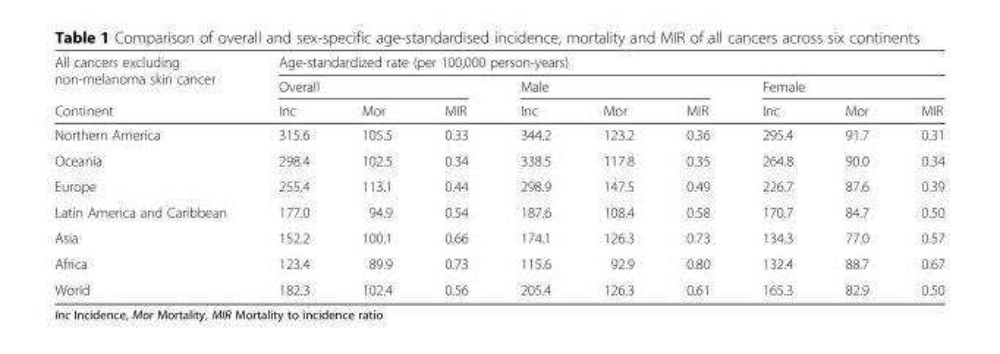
<table><thead><tr><td rowspan="3">All cancers excluding non-melanoma skin cancer Continent</td><td colspan="9">Age-standardized rate (per 100,000 person-years)</td></tr><tr><td colspan="3">Overall</td><td colspan="3">Male</td><td colspan="3">Female</td></tr><tr><td>Inc</td><td>Mor</td><td>MIR</td><td>Inc</td><td>Mor</td><td>MIR</td><td>Inc</td><td>Mor</td><td>MIR</td></tr></thead><tbody><tr><td>Northern America</td><td>315.6</td><td>105.5</td><td>0.33</td><td>344.2</td><td>123.2</td><td>0.36</td><td>295.4</td><td>91.7</td><td>0.31</td></tr><tr><td>Oceania</td><td>298.4</td><td>102.5</td><td>0.34</td><td>338.5</td><td>117.8</td><td>0.35</td><td>264.8</td><td>90.0</td><td>0.34</td></tr><tr><td>Europe</td><td>255.4</td><td>113.1</td><td>0.44</td><td>298.9</td><td>147.5</td><td>0.49</td><td>226.7</td><td>87.6</td><td>0.39</td></tr><tr><td>Latin America and Caribbean</td><td>177.0</td><td>94.9</td><td>0.54</td><td>187.6</td><td>108.4</td><td>0.58</td><td>170.7</td><td>84.7</td><td>0.50</td></tr><tr><td>Asia</td><td>152.2</td><td>100.1</td><td>0.66</td><td>174.1</td><td>126.3</td><td>0.73</td><td>134.3</td><td>77.0</td><td>0.57</td></tr><tr><td>Africa</td><td>123.4</td><td>89.9</td><td>0.73</td><td>115.6</td><td>92.9</td><td>0.80</td><td>132.4</td><td>88.7</td><td>0.67</td></tr><tr><td>World</td><td>182.3</td><td>102.4</td><td>0.56</td><td>205.4</td><td>126.3</td><td>0.61</td><td>165.3</td><td>82.9</td><td>0.50</td></tr></tbody></table>